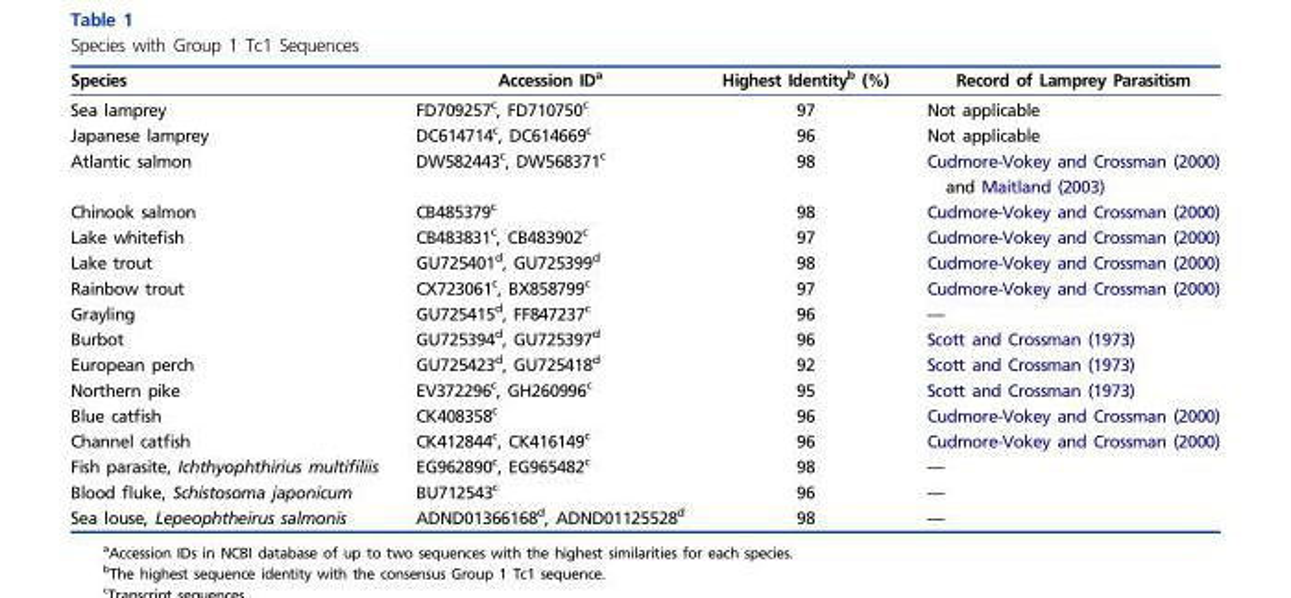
<table><thead><tr><td>Species</td><td>Accession ID<sup>a</sup></td><td>Highest Identity<sup>b</sup> (%)</td><td>Record of Lamprey Parasitism</td></tr></thead><tbody><tr><td>Sea lamprey</td><td>FD709257<sup>c</sup>, FD710750<sup>c</sup></td><td>97</td><td>Not applicable</td></tr><tr><td>Japanese lamprey</td><td>DC614714<sup>c</sup>, DC614669<sup>c</sup></td><td>96</td><td>Not applicable</td></tr><tr><td>Atlantic salmon</td><td>DW582443<sup>c</sup>, DW568371<sup>c</sup></td><td>98</td><td>Cudmore-Vokey and Crossman (2000) and Maitland (2003)</td></tr><tr><td>Chinook salmon</td><td>CB485379<sup>c</sup></td><td>98</td><td>Cudmore-Vokey and Crossman (2000)</td></tr><tr><td>Lake whitefish</td><td>CB483831<sup>c</sup>, CB483902<sup>c</sup></td><td>97</td><td>Cudmore-Vokey and Crossman (2000)</td></tr><tr><td>Lake trout</td><td>GU725401<sup>d</sup>, GU725399<sup>d</sup></td><td>98</td><td>Cudmore-Vokey and Crossman (2000)</td></tr><tr><td>Rainbow trout</td><td>CX723061<sup>c</sup>, BX858799<sup>c</sup></td><td>97</td><td>Cudmore-Vokey and Crossman (2000)</td></tr><tr><td>Grayling</td><td>GU725415<sup>d</sup>, FF847237<sup>c</sup></td><td>96</td><td>—</td></tr><tr><td>Burbot</td><td>GU725394<sup>d</sup>, GU725397<sup>d</sup></td><td>96</td><td>Scott and Crossman (1973)</td></tr><tr><td>European perch</td><td>GU725423<sup>d</sup>, GU725418<sup>d</sup></td><td>92</td><td>Scott and Crossman (1973)</td></tr><tr><td>Northern pike</td><td>EV372296<sup>c</sup>, GH260996<sup>c</sup></td><td>95</td><td>Scott and Crossman (1973)</td></tr><tr><td>Blue catfish</td><td>CK408358<sup>c</sup></td><td>96</td><td>Cudmore-Vokey and Crossman (2000)</td></tr><tr><td>Channel catfish</td><td>CK412844<sup>c</sup>, CK416149<sup>c</sup></td><td>96</td><td>Cudmore-Vokey and Crossman (2000)</td></tr><tr><td>Fish parasite, Ichthyophthirius multifiliis</td><td>EG962890<sup>c</sup>, EG965482<sup>c</sup></td><td>98</td><td>—</td></tr><tr><td>Blood fluke, Schistosoma japonicum</td><td>BU712543<sup>c</sup></td><td>96</td><td>—</td></tr><tr><td>Sea louse, Lepeophtheirus salmonis</td><td>ADND01366168<sup>d</sup>, ADND01125528<sup>d</sup></td><td>98</td><td>—</td></tr></tbody></table>